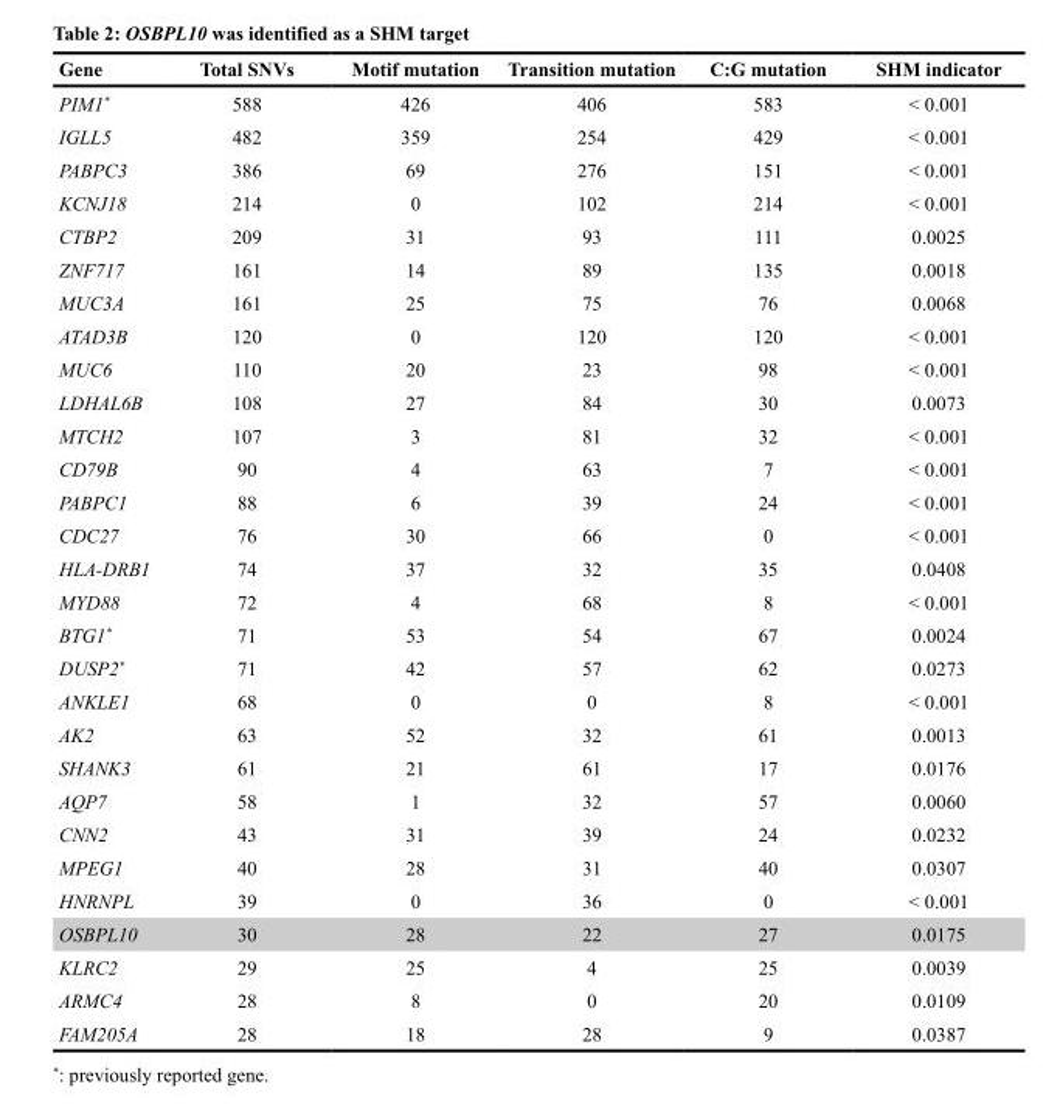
<table><thead><tr><td>Gene</td><td>Total SNVs</td><td>Motif mutation</td><td>Transition mutation</td><td>C:G mutation</td><td>SHM indicator</td></tr></thead><tbody><tr><td>PIM1*</td><td>588</td><td>426</td><td>406</td><td>583</td><td>&lt; 0.001</td></tr><tr><td>IGLL5</td><td>482</td><td>359</td><td>254</td><td>429</td><td>&lt; 0.001</td></tr><tr><td>PABPC3</td><td>386</td><td>69</td><td>276</td><td>151</td><td>&lt; 0.001</td></tr><tr><td>KCNJ18</td><td>214</td><td>0</td><td>102</td><td>214</td><td>&lt; 0.001</td></tr><tr><td>CTBP2</td><td>209</td><td>31</td><td>93</td><td>111</td><td>0.0025</td></tr><tr><td>ZNF717</td><td>161</td><td>14</td><td>89</td><td>135</td><td>0.0018</td></tr><tr><td>MUC3A</td><td>161</td><td>25</td><td>75</td><td>76</td><td>0.0068</td></tr><tr><td>ATAD3B</td><td>120</td><td>0</td><td>120</td><td>120</td><td>&lt; 0.001</td></tr><tr><td>MUC6</td><td>110</td><td>20</td><td>23</td><td>98</td><td>&lt; 0.001</td></tr><tr><td>LDHAL6B</td><td>108</td><td>27</td><td>84</td><td>30</td><td>0.0073</td></tr><tr><td>MTCH2</td><td>107</td><td>3</td><td>81</td><td>32</td><td>&lt; 0.001</td></tr><tr><td>CD79B</td><td>90</td><td>4</td><td>63</td><td>7</td><td>&lt; 0.001</td></tr><tr><td>PABPC1</td><td>88</td><td>6</td><td>39</td><td>24</td><td>&lt; 0.001</td></tr><tr><td>CDC27</td><td>76</td><td>30</td><td>66</td><td>0</td><td>&lt; 0.001</td></tr><tr><td>HLA-DRB1</td><td>74</td><td>37</td><td>32</td><td>35</td><td>0.0408</td></tr><tr><td>MYD88</td><td>72</td><td>4</td><td>68</td><td>8</td><td>&lt; 0.001</td></tr><tr><td>BTG1*</td><td>71</td><td>53</td><td>54</td><td>67</td><td>0.0024</td></tr><tr><td>DUSP2*</td><td>71</td><td>42</td><td>57</td><td>62</td><td>0.0273</td></tr><tr><td>ANKLE1</td><td>68</td><td>0</td><td>0</td><td>8</td><td>&lt; 0.001</td></tr><tr><td>AK2</td><td>63</td><td>52</td><td>32</td><td>61</td><td>0.0013</td></tr><tr><td>SHANK3</td><td>61</td><td>21</td><td>61</td><td>17</td><td>0.0176</td></tr><tr><td>AQP7</td><td>58</td><td>1</td><td>32</td><td>57</td><td>0.0060</td></tr><tr><td>CNN2</td><td>43</td><td>31</td><td>39</td><td>24</td><td>0.0232</td></tr><tr><td>MPEG1</td><td>40</td><td>28</td><td>31</td><td>40</td><td>0.0307</td></tr><tr><td>HNRNPL</td><td>39</td><td>0</td><td>36</td><td>0</td><td>&lt; 0.001</td></tr><tr><td>OSBPL10</td><td>30</td><td>28</td><td>22</td><td>27</td><td>0.0175</td></tr><tr><td>KLRC2</td><td>29</td><td>25</td><td>4</td><td>25</td><td>0.0039</td></tr><tr><td>ARMC4</td><td>28</td><td>8</td><td>0</td><td>20</td><td>0.0109</td></tr><tr><td>FAM205A</td><td>28</td><td>18</td><td>28</td><td>9</td><td>0.0387</td></tr></tbody></table>